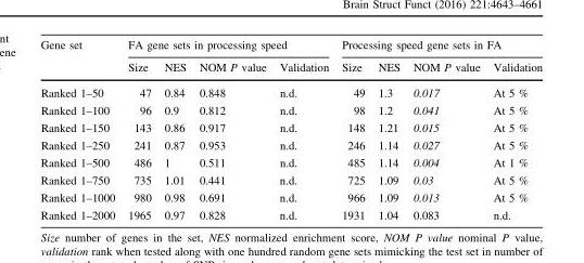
<table><thead><tr><td rowspan="2">Gene set</td><td colspan="4">FA gene sets in processing speed</td><td colspan="4">Processing speed gene sets in FA</td></tr><tr><td>Size</td><td>NES</td><td>NOM P value</td><td>Validation</td><td>Size</td><td>NES</td><td>NOM P value</td><td>Validation</td></tr></thead><tbody><tr><td>Ranked 1–50</td><td>47</td><td>0.84</td><td>0.848</td><td>n.d.</td><td>49</td><td>1.3</td><td>0.017</td><td>At 5 %</td></tr><tr><td>Ranked 1–100</td><td>96</td><td>0.9</td><td>0.812</td><td>n.d.</td><td>98</td><td>1.2</td><td>0.041</td><td>At 5 %</td></tr><tr><td>Ranked 1–150</td><td>143</td><td>0.86</td><td>0.917</td><td>n.d.</td><td>148</td><td>1.21</td><td>0.015</td><td>At 5 %</td></tr><tr><td>Ranked 1–250</td><td>241</td><td>0.87</td><td>0.953</td><td>n.d.</td><td>246</td><td>1.14</td><td>0.027</td><td>At 5 %</td></tr><tr><td>Ranked 1–500</td><td>486</td><td>1</td><td>0.511</td><td>n.d.</td><td>485</td><td>1.14</td><td>0.004</td><td>At 1 %</td></tr><tr><td>Ranked 1–750</td><td>735</td><td>1.01</td><td>0.441</td><td>n.d.</td><td>725</td><td>1.09</td><td>0.03</td><td>At 5 %</td></tr><tr><td>Ranked 1–1000</td><td>980</td><td>0.98</td><td>0.691</td><td>n.d.</td><td>966</td><td>1.09</td><td>0.013</td><td>At 5 %</td></tr><tr><td>Ranked 1–2000</td><td>1965</td><td>0.97</td><td>0.828</td><td>n.d.</td><td>1931</td><td>1.04</td><td>0.083</td><td>n.d.</td></tr></tbody></table>